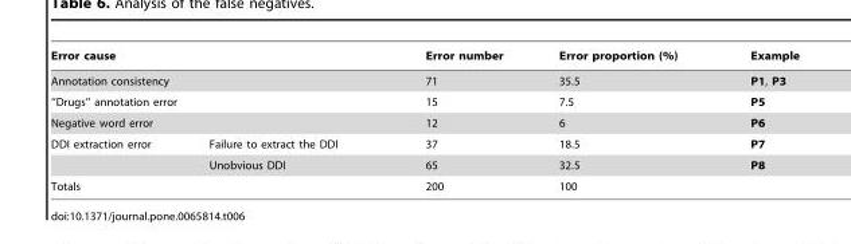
<table><thead><tr><td colspan="2">Error cause</td><td>Error number</td><td>Error proportion (%)</td><td>Example</td></tr></thead><tbody><tr><td colspan="2">Annotation consistency</td><td>71</td><td>35.5</td><td>P1, P3</td></tr><tr><td colspan="2">‘‘Drugs’’ annotation error</td><td>15</td><td>7.5</td><td>P5</td></tr><tr><td colspan="2">Negative word error</td><td>12</td><td>6</td><td>P6</td></tr><tr><td rowspan="2">DDI extraction error</td><td>Failure to extract the DDI</td><td>37</td><td>18.5</td><td>P7</td></tr><tr><td>Unobvious DDI</td><td>65</td><td>32.5</td><td>P8</td></tr><tr><td colspan="2">Totals</td><td>200</td><td>100</td><td></td></tr></tbody></table>